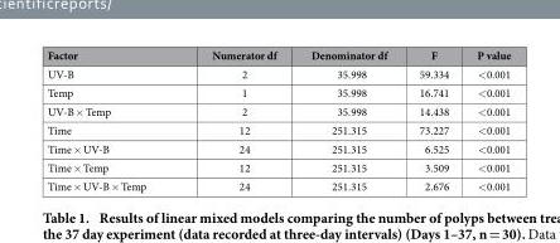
<table><thead><tr><td>Factor</td><td>Numerator df</td><td>Denominator df</td><td>F</td><td>P value</td></tr></thead><tbody><tr><td>UV-B</td><td>2</td><td>35.998</td><td>59.334</td><td>&lt; 0.001</td></tr><tr><td>Temp</td><td>1</td><td>35.998</td><td>16.741</td><td>&lt; 0.001</td></tr><tr><td>UV-B × Temp</td><td>2</td><td>35.998</td><td>14.438</td><td>&lt; 0.001</td></tr><tr><td>Time</td><td>12</td><td>251.315</td><td>73.227</td><td>&lt; 0.001</td></tr><tr><td>Time × UV-B</td><td>24</td><td>251.315</td><td>6.525</td><td>&lt; 0.001</td></tr><tr><td>Time × Temp</td><td>12</td><td>251.315</td><td>3.509</td><td>&lt; 0.001</td></tr><tr><td>Time × UV-B × Temp</td><td>24</td><td>251.315</td><td>2.676</td><td>&lt; 0.001</td></tr></tbody></table>